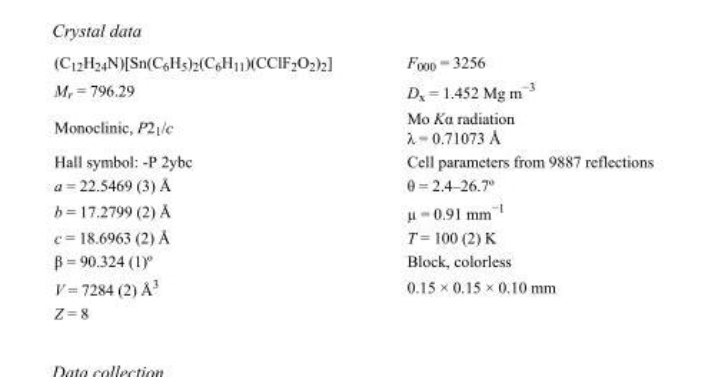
<table><tbody><tr><td>(C<sub>12</sub>H<sub>24</sub>N)[Sn(C<sub>6</sub>H<sub>5</sub>)<sub>2</sub>(C<sub>6</sub>H<sub>11</sub>)(CClF<sub>2</sub>O<sub>2</sub>)<sub>2</sub>]</td><td>F<sub>000</sub> = 3256</td></tr><tr><td>M<sub>r</sub> = 796.29</td><td>D<sub>x</sub> = 1.452 Mg m<sup>−3</sup></td></tr><tr><td>Monoclinic, P2<sub>1</sub>/c</td><td>Mo Kα radiation λ = 0.71073 Å</td></tr><tr><td>Hall symbol: -P 2ybc</td><td>Cell parameters from 9887 reflections</td></tr><tr><td>a = 22.5469 (3) Å</td><td>θ = 2.4–26.7º</td></tr><tr><td>b = 17.2799 (2) Å</td><td>µ = 0.91 mm<sup>−1</sup></td></tr><tr><td>c = 18.6963 (2) Å</td><td>T = 100 (2) K</td></tr><tr><td>β = 90.324 (1)º</td><td>Block, colorless</td></tr><tr><td>V = 7284 (2) Å<sup>3</sup></td><td>0.15 × 0.15 × 0.10 mm</td></tr><tr><td>Z = 8</td><td></td></tr></tbody></table>